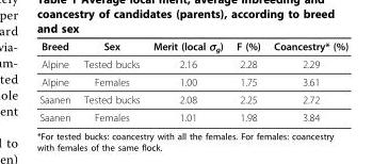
<table><thead><tr><td>Breed</td><td>Sex</td><td>Merit (local σ<sub>g</sub>)</td><td>F (%)</td><td>Coancestry* (%)</td></tr></thead><tbody><tr><td>Alpine</td><td>Tested bucks</td><td>2.16</td><td>2.28</td><td>2.29</td></tr><tr><td>Alpine</td><td>Females</td><td>1.00</td><td>1.75</td><td>3.61</td></tr><tr><td>Saanen</td><td>Tested bucks</td><td>2.08</td><td>2.25</td><td>2.72</td></tr><tr><td>Saanen</td><td>Females</td><td>1.01</td><td>1.98</td><td>3.84</td></tr></tbody></table>